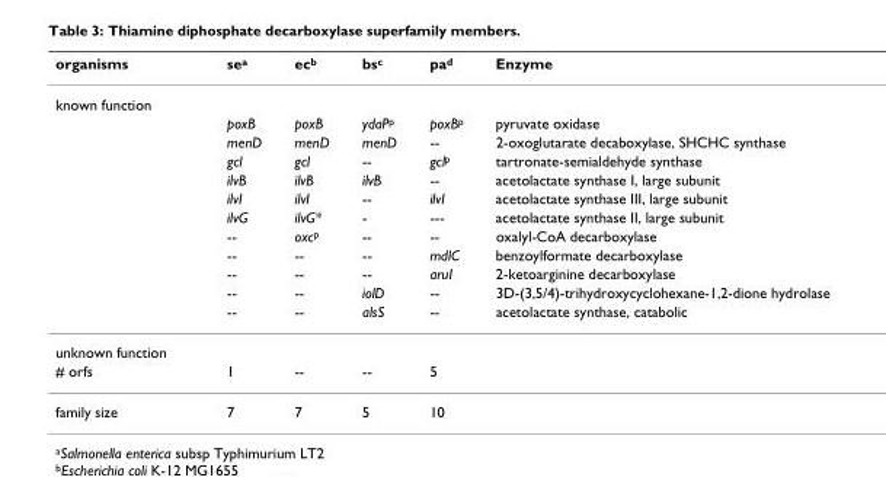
<table><thead><tr><td>organisms</td><td>se<sup>a</sup></td><td>ec<sup>b</sup></td><td>bs<sup>c</sup></td><td>pa<sup>d</sup></td><td>Enzyme</td></tr></thead><tbody><tr><td colspan="6">known function</td></tr><tr><td></td><td>poxB</td><td>poxB</td><td>ydaP<sup>p</sup></td><td>poxB<sup>p</sup></td><td>pyruvate oxidase</td></tr><tr><td></td><td>menD</td><td>menD</td><td>menD</td><td>--</td><td>2-oxoglutarate decaboxylase, SHCHC synthase</td></tr><tr><td></td><td>gcl</td><td>gcl</td><td>--</td><td>gcl<sup>p</sup></td><td>tartronate-semialdehyde synthase</td></tr><tr><td></td><td>ilvB</td><td>ilvB</td><td>ilvB</td><td>--</td><td>acetolactate synthase I, large subunit</td></tr><tr><td></td><td>ilvI</td><td>ilvI</td><td>--</td><td>ilvI</td><td>acetolactate synthase III, large subunit</td></tr><tr><td></td><td>ilvG</td><td>ilvG*</td><td>-</td><td>---</td><td>acetolactate synthase II, large subunit</td></tr><tr><td></td><td>--</td><td>oxc<sup>p</sup></td><td>--</td><td>--</td><td>oxalyl-CoA decarboxylase</td></tr><tr><td></td><td>--</td><td>--</td><td>--</td><td>mdlC</td><td>benzoylformate decarboxylase</td></tr><tr><td></td><td>--</td><td>--</td><td>--</td><td>aruI</td><td>2-ketoarginine decarboxylase</td></tr><tr><td></td><td>--</td><td>--</td><td>iolD</td><td>--</td><td>3D-(3,5/4)-trihydroxycyclohexane-1,2-dione hydrolase</td></tr><tr><td></td><td>--</td><td>--</td><td>alsS</td><td>--</td><td>acetolactate synthase, catabolic</td></tr><tr><td colspan="6">unknown function</td></tr><tr><td># orfs</td><td>1</td><td>--</td><td>--</td><td>5</td><td></td></tr><tr><td>family size</td><td>7</td><td>7</td><td>5</td><td>10</td><td></td></tr></tbody></table>